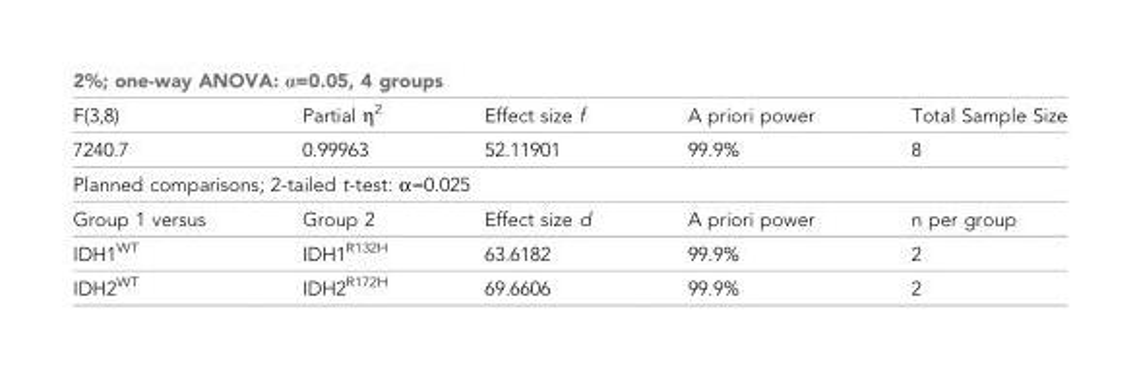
<table><thead><tr><td colspan="5">2%; one-way ANOVA: α=0.05, 4 groups</td></tr><tr><td>F(3,8)</td><td>Partial η<sup>2</sup></td><td>Effect size f</td><td>A priori power</td><td>Total Sample Size</td></tr></thead><tbody><tr><td>7240.7</td><td>0.99963</td><td>52.11901</td><td>99.9%</td><td>8</td></tr><tr><td colspan="5">Planned comparisons; 2-tailed t-test: α=0.025</td></tr><tr><td>Group 1 versus</td><td>Group 2</td><td>Effect size d</td><td>A priori power</td><td>n per group</td></tr><tr><td>IDH1<sup>WT</sup></td><td>IDH1<sup>R132H</sup></td><td>63.6182</td><td>99.9%</td><td>2</td></tr><tr><td>IDH2<sup>WT</sup></td><td>IDH2<sup>R172H</sup></td><td>69.6606</td><td>99.9%</td><td>2</td></tr></tbody></table>